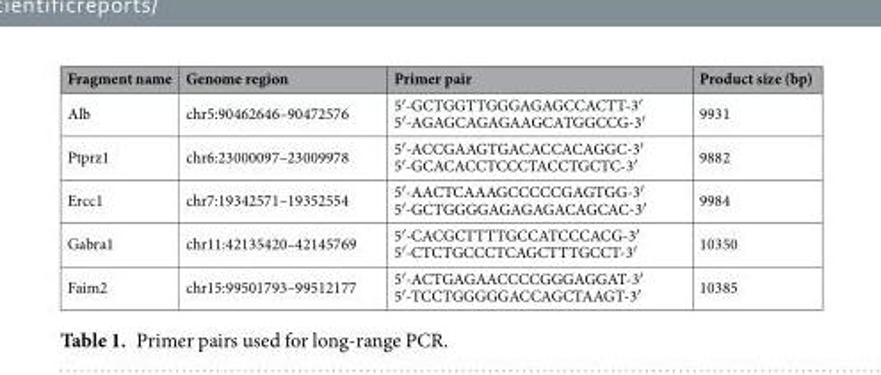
<table><thead><tr><td>Fragment name</td><td>Genome region</td><td>Primer pair</td><td>Product size (bp)</td></tr></thead><tbody><tr><td>Alb</td><td>chr5:90462646–90472576</td><td>5′-GCTGGTTGGGAGAGCCACTT-3′ 5′-AGAGCAGAGAAGCATGGCCG-3′</td><td>9931</td></tr><tr><td>Ptprz1</td><td>chr6:23000097–23009978</td><td>5′-ACCGAAGTGACACCACAGGC-3′ 5′-GCACACCTCCCTACCTGCTC-3′</td><td>9882</td></tr><tr><td>Ercc1</td><td>chr7:19342571–19352554</td><td>5′-AACTCAAAGCCCCCGAGTGG-3′ 5′-GCTGGGGAGAGAGACAGCAC-3′</td><td>9984</td></tr><tr><td>Gabra1</td><td>chr11:42135420–42145769</td><td>5′-CACGCTTTTGCCATCCCACG-3′ 5′-CTCTGCCCTCAGCTTTGCCT-3′</td><td>10350</td></tr><tr><td>Faim2</td><td>chr15:99501793–99512177</td><td>5′-ACTGAGAACCCCGGGAGGAT-3′ 5′-TCCTGGGGGACCAGCTAAGT-3′</td><td>10385</td></tr></tbody></table>